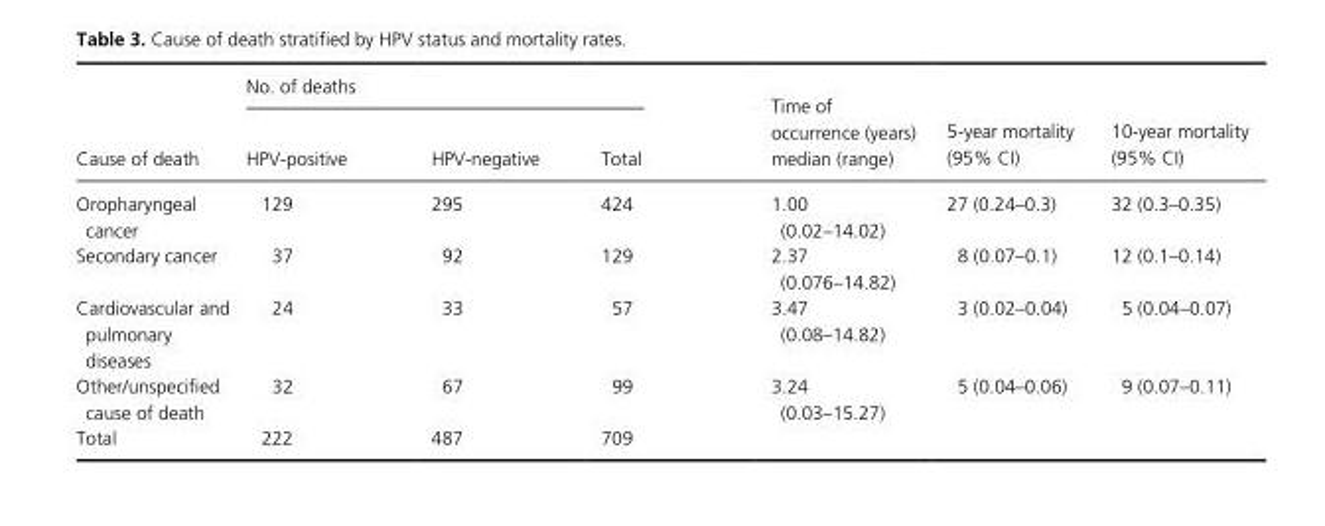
<table><thead><tr><td rowspan="2">Cause of death</td><td colspan="3">No. of deaths</td><td rowspan="2">Time of occurrence (years) median (range)</td><td rowspan="2">5- year mortality (95% CI)</td><td rowspan="2">10- year mortality (95% CI)</td></tr><tr><td>HPV- positive</td><td>HPV- negative</td><td>Total</td></tr></thead><tbody><tr><td>Oropharyngeal cancer</td><td>129</td><td>295</td><td>424</td><td>1.00 (0.02–14.02)</td><td>27 (0.24–0.3)</td><td>32 (0.3–0.35)</td></tr><tr><td>Secondary cancer</td><td>37</td><td>92</td><td>129</td><td>2.37 (0.076–14.82)</td><td>8 (0.07–0.1)</td><td>12 (0.1–0.14)</td></tr><tr><td>Cardiovascular and pulmonary diseases</td><td>24</td><td>33</td><td>57</td><td>3.47 (0.08–14.82)</td><td>3 (0.02–0.04)</td><td>5 (0.04–0.07)</td></tr><tr><td>Other/unspecified cause of death</td><td>32</td><td>67</td><td>99</td><td>3.24 (0.03–15.27)</td><td>5 (0.04–0.06)</td><td>9 (0.07–0.11)</td></tr><tr><td>Total</td><td>222</td><td>487</td><td>709</td><td></td><td></td><td></td></tr></tbody></table>